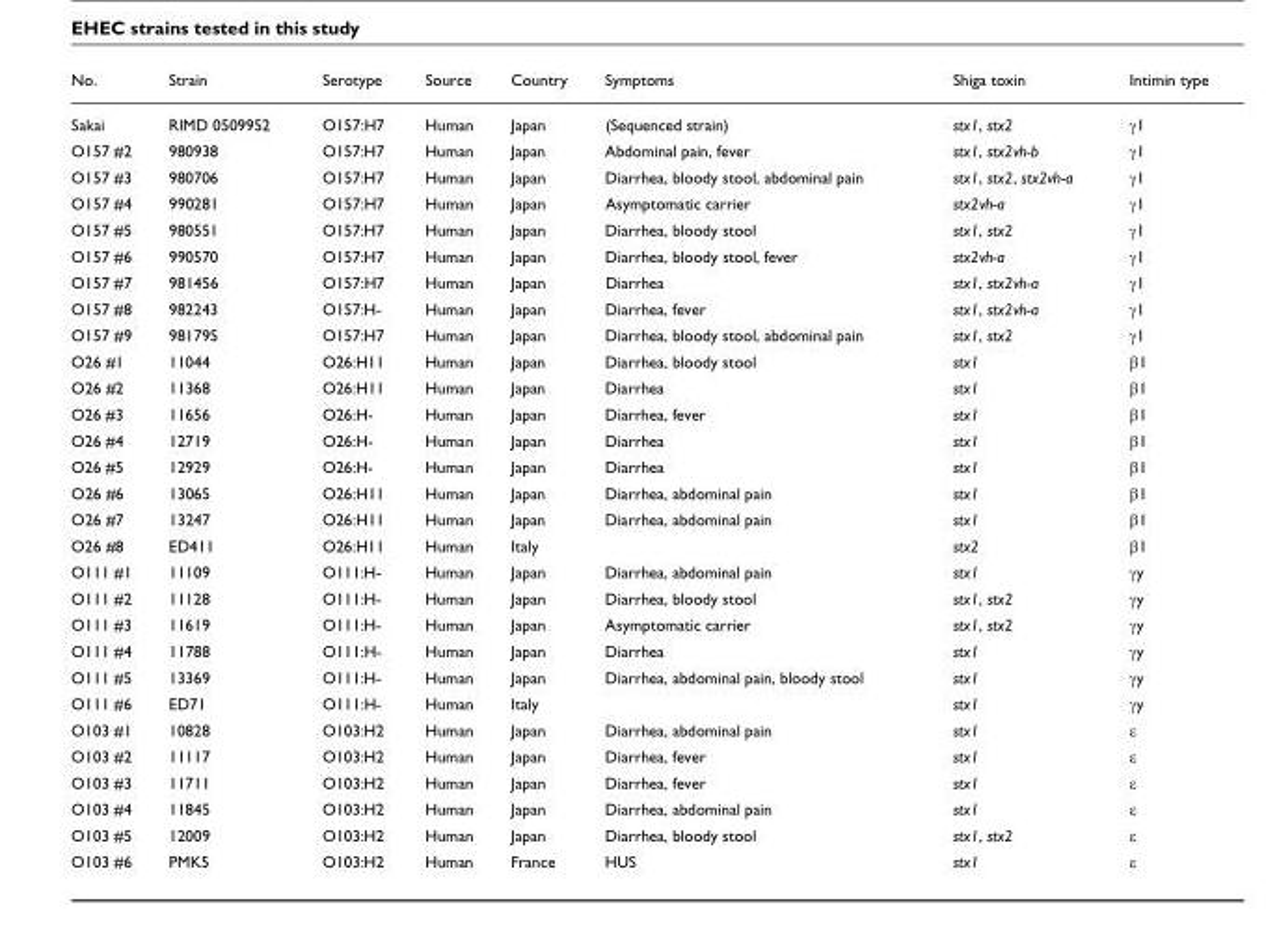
<table><thead><tr><td>No.</td><td>Strain</td><td>Serotype</td><td>Source</td><td>Country</td><td>Symptoms</td><td>Shiga toxin</td><td>Intimin type</td></tr></thead><tbody><tr><td>Sakai</td><td>RIMD 0509952</td><td>O157:H7</td><td>Human</td><td>Japan</td><td>(Sequenced strain)</td><td>stx1, stx2</td><td>γ1</td></tr><tr><td>O157 #2</td><td>980938</td><td>O157:H7</td><td>Human</td><td>Japan</td><td>Abdominal pain, fever</td><td>stx1, stx2vh-b</td><td>γ1</td></tr><tr><td>O157 #3</td><td>980706</td><td>O157:H7</td><td>Human</td><td>Japan</td><td>Diarrhea, bloody stool, abdominal pain</td><td>stx1, stx2, stx2vh-a</td><td>γ1</td></tr><tr><td>O157 #4</td><td>990281</td><td>O157:H7</td><td>Human</td><td>Japan</td><td>Asymptomatic carrier</td><td>stx2vh-a</td><td>γ1</td></tr><tr><td>O157 #5</td><td>980551</td><td>O157:H7</td><td>Human</td><td>Japan</td><td>Diarrhea, bloody stool</td><td>stx1, stx2</td><td>γ1</td></tr><tr><td>O157 #6</td><td>990570</td><td>O157:H7</td><td>Human</td><td>Japan</td><td>Diarrhea, bloody stool, fever</td><td>stx2vh-a</td><td>γ1</td></tr><tr><td>O157 #7</td><td>981456</td><td>O157:H7</td><td>Human</td><td>Japan</td><td>Diarrhea</td><td>stx1, stx2vh-a</td><td>γ1</td></tr><tr><td>O157 #8</td><td>982243</td><td>O157:H-</td><td>Human</td><td>Japan</td><td>Diarrhea, fever</td><td>stx1, stx2vh-a</td><td>γ1</td></tr><tr><td>O157 #9</td><td>981795</td><td>O157:H7</td><td>Human</td><td>Japan</td><td>Diarrhea, bloody stool, abdominal pain</td><td>stx1, stx2</td><td>γ1</td></tr><tr><td>O26 #1</td><td>11044</td><td>O26:H11</td><td>Human</td><td>Japan</td><td>Diarrhea, bloody stool</td><td>stx1</td><td>β1</td></tr><tr><td>O26 #2</td><td>11368</td><td>O26:H11</td><td>Human</td><td>Japan</td><td>Diarrhea</td><td>stx1</td><td>β1</td></tr><tr><td>O26 #3</td><td>11656</td><td>O26:H-</td><td>Human</td><td>Japan</td><td>Diarrhea, fever</td><td>stx1</td><td>β1</td></tr><tr><td>O26 #4</td><td>12719</td><td>O26:H-</td><td>Human</td><td>Japan</td><td>Diarrhea</td><td>stx1</td><td>β1</td></tr><tr><td>O26 #5</td><td>12929</td><td>O26:H-</td><td>Human</td><td>Japan</td><td>Diarrhea</td><td>stx1</td><td>β1</td></tr><tr><td>O26 #6</td><td>13065</td><td>O26:H11</td><td>Human</td><td>Japan</td><td>Diarrhea, abdominal pain</td><td>stx1</td><td>β1</td></tr><tr><td>O26 #7</td><td>13247</td><td>O26:H11</td><td>Human</td><td>Japan</td><td>Diarrhea, abdominal pain</td><td>stx1</td><td>β1</td></tr><tr><td>O26 #8</td><td>ED411</td><td>O26:H11</td><td>Human</td><td>Italy</td><td></td><td>stx2</td><td>β1</td></tr><tr><td>O111 #1</td><td>11109</td><td>O111:H-</td><td>Human</td><td>Japan</td><td>Diarrhea, abdominal pain</td><td>stx1</td><td>γy</td></tr><tr><td>O111 #2</td><td>11128</td><td>O111:H-</td><td>Human</td><td>Japan</td><td>Diarrhea, bloody stool</td><td>stx1, stx2</td><td>γy</td></tr><tr><td>O111 #3</td><td>11619</td><td>O111:H-</td><td>Human</td><td>Japan</td><td>Asymptomatic carrier</td><td>stx1, stx2</td><td>γy</td></tr><tr><td>O111 #4</td><td>11788</td><td>O111:H-</td><td>Human</td><td>Japan</td><td>Diarrhea</td><td>stx1</td><td>γy</td></tr><tr><td>O111 #5</td><td>13369</td><td>O111:H-</td><td>Human</td><td>Japan</td><td>Diarrhea, abdominal pain, bloody stool</td><td>stx1</td><td>γy</td></tr><tr><td>O111 #6</td><td>ED71</td><td>O111:H-</td><td>Human</td><td>Italy</td><td></td><td>stx1</td><td>γy</td></tr><tr><td>O103 #1</td><td>10828</td><td>O103:H2</td><td>Human</td><td>Japan</td><td>Diarrhea, abdominal pain</td><td>stx1</td><td>ε</td></tr><tr><td>O103 #2</td><td>11117</td><td>O103:H2</td><td>Human</td><td>Japan</td><td>Diarrhea, fever</td><td>stx1</td><td>ε</td></tr><tr><td>O103 #3</td><td>11711</td><td>O103:H2</td><td>Human</td><td>Japan</td><td>Diarrhea, fever</td><td>stx1</td><td>ε</td></tr><tr><td>O103 #4</td><td>11845</td><td>O103:H2</td><td>Human</td><td>Japan</td><td>Diarrhea, abdominal pain</td><td>stx1</td><td>ε</td></tr><tr><td>O103 #5</td><td>12009</td><td>O103:H2</td><td>Human</td><td>Japan</td><td>Diarrhea, bloody stool</td><td>stx1, stx2</td><td>ε</td></tr><tr><td>O103 #6</td><td>PMK5</td><td>O103:H2</td><td>Human</td><td>France</td><td>HUS</td><td>stx1</td><td>ε</td></tr></tbody></table>